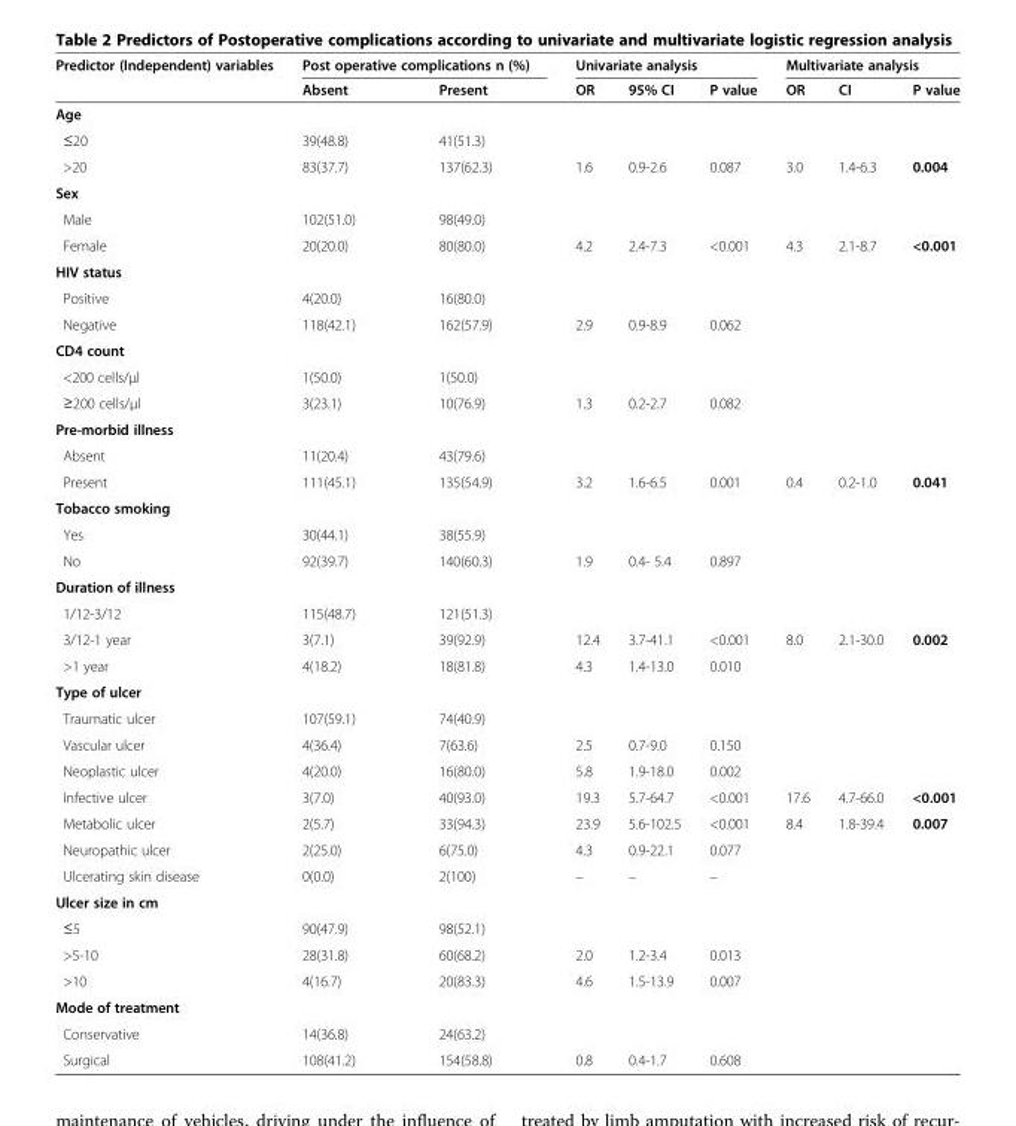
<table><thead><tr><td rowspan="2">Predictor (Independent) variables</td><td colspan="2">Post operative complications n (%)</td><td colspan="3">Univariate analysis</td><td colspan="3">Multivariate analysis</td></tr><tr><td>Absent</td><td>Present</td><td>OR</td><td>95% CI</td><td>P value</td><td>OR</td><td>CI</td><td>P value</td></tr></thead><tbody><tr><td colspan="9">Age</td></tr><tr><td>≤20</td><td>39(48.8)</td><td>41(51.3)</td><td></td><td></td><td></td><td></td><td></td><td></td></tr><tr><td>&gt;20</td><td>83(37.7)</td><td>137(62.3)</td><td>1.6</td><td>0.9-2.6</td><td>0.087</td><td>3.0</td><td>1.4-6.3</td><td>0.004</td></tr><tr><td colspan="9">Sex</td></tr><tr><td>Male</td><td>102(51.0)</td><td>98(49.0)</td><td></td><td></td><td></td><td></td><td></td><td></td></tr><tr><td>Female</td><td>20(20.0)</td><td>80(80.0)</td><td>4.2</td><td>2.4-7.3</td><td>&lt;0.001</td><td>4.3</td><td>2.1-8.7</td><td>&lt;0.001</td></tr><tr><td colspan="9">HIV status</td></tr><tr><td>Positive</td><td>4(20.0)</td><td>16(80.0)</td><td></td><td></td><td></td><td></td><td></td><td></td></tr><tr><td>Negative</td><td>118(42.1)</td><td>162(57.9)</td><td>2.9</td><td>0.9-8.9</td><td>0.062</td><td></td><td></td><td></td></tr><tr><td colspan="9">CD4 count</td></tr><tr><td>&lt;200 cells/μl</td><td>1(50.0)</td><td>1(50.0)</td><td></td><td></td><td></td><td></td><td></td><td></td></tr><tr><td>≥200 cells/μl</td><td>3(23.1)</td><td>10(76.9)</td><td>1.3</td><td>0.2-2.7</td><td>0.082</td><td></td><td></td><td></td></tr><tr><td colspan="9">Pre-morbid illness</td></tr><tr><td>Absent</td><td>11(20.4)</td><td>43(79.6)</td><td></td><td></td><td></td><td></td><td></td><td></td></tr><tr><td>Present</td><td>111(45.1)</td><td>135(54.9)</td><td>3.2</td><td>1.6-6.5</td><td>0.001</td><td>0.4</td><td>0.2-1.0</td><td>0.041</td></tr><tr><td colspan="9">Tobacco smoking</td></tr><tr><td>Yes</td><td>30(44.1)</td><td>38(55.9)</td><td></td><td></td><td></td><td></td><td></td><td></td></tr><tr><td>No</td><td>92(39.7)</td><td>140(60.3)</td><td>1.9</td><td>0.4- 5.4</td><td>0.897</td><td></td><td></td><td></td></tr><tr><td colspan="9">Duration of illness</td></tr><tr><td>1/12-3/12</td><td>115(48.7)</td><td>121(51.3)</td><td></td><td></td><td></td><td></td><td></td><td></td></tr><tr><td>3/12-1 year</td><td>3(7.1)</td><td>39(92.9)</td><td>12.4</td><td>3.7-41.1</td><td>&lt;0.001</td><td>8.0</td><td>2.1-30.0</td><td>0.002</td></tr><tr><td>&gt;1 year</td><td>4(18.2)</td><td>18(81.8)</td><td>4.3</td><td>1.4-13.0</td><td>0.010</td><td></td><td></td><td></td></tr><tr><td colspan="9">Type of ulcer</td></tr><tr><td>Traumatic ulcer</td><td>107(59.1)</td><td>74(40.9)</td><td></td><td></td><td></td><td></td><td></td><td></td></tr><tr><td>Vascular ulcer</td><td>4(36.4)</td><td>7(63.6)</td><td>2.5</td><td>0.7-9.0</td><td>0.150</td><td></td><td></td><td></td></tr><tr><td>Neoplastic ulcer</td><td>4(20.0)</td><td>16(80.0)</td><td>5.8</td><td>1.9-18.0</td><td>0.002</td><td></td><td></td><td></td></tr><tr><td>Infective ulcer</td><td>3(7.0)</td><td>40(93.0)</td><td>19.3</td><td>5.7-64.7</td><td>&lt;0.001</td><td>17.6</td><td>4.7-66.0</td><td>&lt;0.001</td></tr><tr><td>Metabolic ulcer</td><td>2(5.7)</td><td>33(94.3)</td><td>23.9</td><td>5.6-102.5</td><td>&lt;0.001</td><td>8.4</td><td>1.8-39.4</td><td>0.007</td></tr><tr><td>Neuropathic ulcer</td><td>2(25.0)</td><td>6(75.0)</td><td>4.3</td><td>0.9-22.1</td><td>0.077</td><td></td><td></td><td></td></tr><tr><td>Ulcerating skin disease</td><td>0(0.0)</td><td>2(100)</td><td>–</td><td>–</td><td>–</td><td></td><td></td><td></td></tr><tr><td colspan="9">Ulcer size in cm</td></tr><tr><td>≤5</td><td>90(47.9)</td><td>98(52.1)</td><td></td><td></td><td></td><td></td><td></td><td></td></tr><tr><td>&gt;5-10</td><td>28(31.8)</td><td>60(68.2)</td><td>2.0</td><td>1.2-3.4</td><td>0.013</td><td></td><td></td><td></td></tr><tr><td>&gt;10</td><td>4(16.7)</td><td>20(83.3)</td><td>4.6</td><td>1.5-13.9</td><td>0.007</td><td></td><td></td><td></td></tr><tr><td colspan="9">Mode of treatment</td></tr><tr><td>Conservative</td><td>14(36.8)</td><td>24(63.2)</td><td></td><td></td><td></td><td></td><td></td><td></td></tr><tr><td>Surgical</td><td>108(41.2)</td><td>154(58.8)</td><td>0.8</td><td>0.4-1.7</td><td>0.608</td><td></td><td></td><td></td></tr></tbody></table>